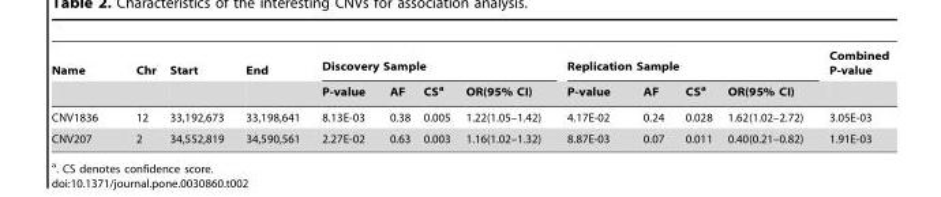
<table><thead><tr><td rowspan="2">Name</td><td rowspan="2">Chr</td><td rowspan="2">Start</td><td rowspan="2">End</td><td colspan="4">Discovery Sample</td><td colspan="4">Replication Sample</td><td rowspan="2">Combined P-value</td></tr><tr><td>P-value</td><td>AF</td><td>CS<sup>a</sup></td><td>OR(95% CI)</td><td>P-value</td><td>AF</td><td>CS<sup>a</sup></td><td>OR(95% CI)</td></tr></thead><tbody><tr><td>CNV1836</td><td>12</td><td>33,192,673</td><td>33,198,641</td><td>8.13E-03</td><td>0.38</td><td>0.005</td><td>1.22(1.05–1.42)</td><td>4.17E-02</td><td>0.24</td><td>0.028</td><td>1.62(1.02–2.72)</td><td>3.05E-03</td></tr><tr><td>CNV207</td><td>2</td><td>34,552,819</td><td>34,590,561</td><td>2.27E-02</td><td>0.63</td><td>0.003</td><td>1.16(1.02–1.32)</td><td>8.87E-03</td><td>0.07</td><td>0.011</td><td>0.40(0.21–0.82)</td><td>1.91E-03</td></tr></tbody></table>